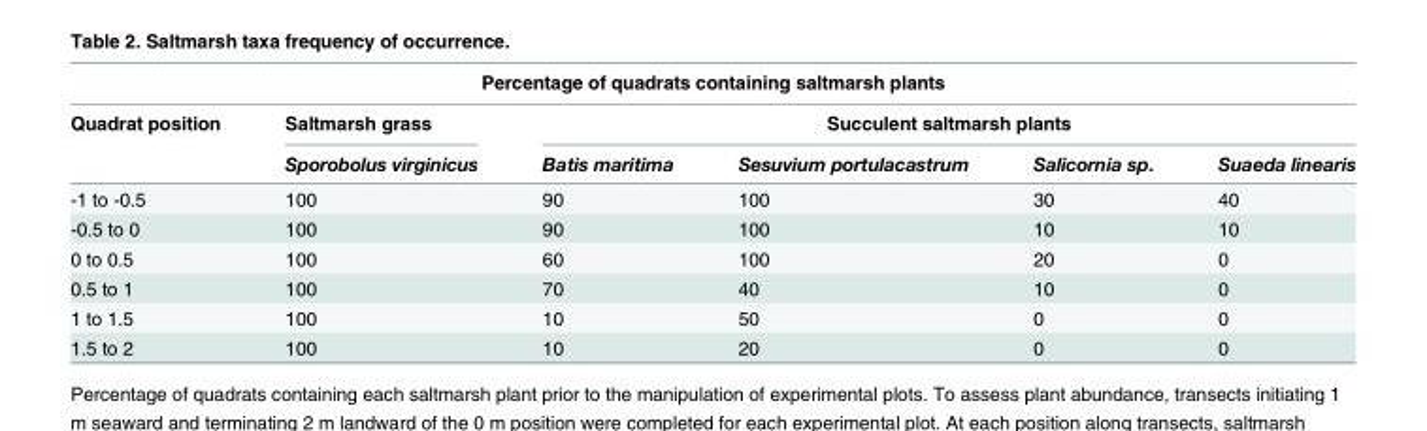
<table><thead><tr><td colspan="6">Percentage of quadrats containing saltmarsh plants</td></tr><tr><td rowspan="2">Quadrat position</td><td rowspan="2">Saltmarsh grass Sporobolus virginicus</td><td colspan="4">Succulent saltmarsh plants</td></tr><tr><td>Batis maritima</td><td>Sesuvium portulacastrum</td><td>Salicornia sp.</td><td>Suaeda linearis</td></tr></thead><tbody><tr><td>-1 to -0.5</td><td>100</td><td>90</td><td>100</td><td>30</td><td>40</td></tr><tr><td>-0.5 to 0</td><td>100</td><td>90</td><td>100</td><td>10</td><td>10</td></tr><tr><td>0 to 0.5</td><td>100</td><td>60</td><td>100</td><td>20</td><td>0</td></tr><tr><td>0.5 to 1</td><td>100</td><td>70</td><td>40</td><td>10</td><td>0</td></tr><tr><td>1 to 1.5</td><td>100</td><td>10</td><td>50</td><td>0</td><td>0</td></tr><tr><td>1.5 to 2</td><td>100</td><td>10</td><td>20</td><td>0</td><td>0</td></tr></tbody></table>